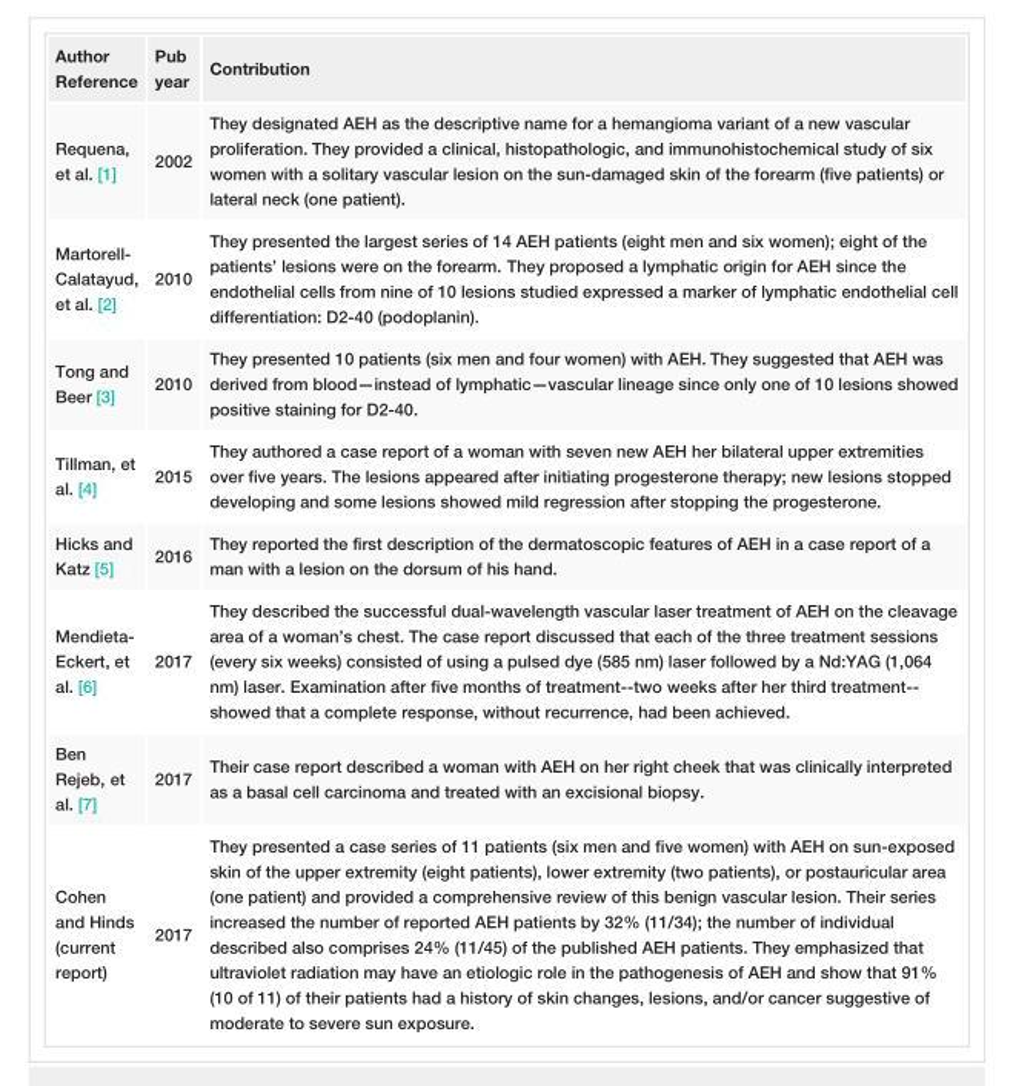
<table><tbody><tr><td>Author Reference</td><td>Pub year</td><td>Contribution</td></tr><tr><td>Requena, et al. [1]</td><td>2002</td><td>They designated AEH as the descriptive name for a hemangioma variant of a new vascular proliferation. They provided a clinical, histopathologic, and immunohistochemical study of six women with a solitary vascular lesion on the sun-damaged skin of the forearm (five patients) or lateral neck (one patient).</td></tr><tr><td>Martorell- Calatayud, et al. [2]</td><td>2010</td><td>They presented the largest series of 14 AEH patients (eight men and six women); eight of the patients’ lesions were on the forearm. They proposed a lymphatic origin for AEH since the endothelial cells from nine of 10 lesions studied expressed a marker of lymphatic endothelial cell differentiation: D2-40 (podoplanin).</td></tr><tr><td>Tong and Beer [3]</td><td>2010</td><td>They presented 10 patients (six men and four women) with AEH. They suggested that AEH was derived from blood—instead of lymphatic—vascular lineage since only one of 10 lesions showed positive staining for D2-40.</td></tr><tr><td>Tillman, et al. [4]</td><td>2015</td><td>They authored a case report of a woman with seven new AEH her bilateral upper extremities over five years. The lesions appeared after initiating progesterone therapy; new lesions stopped developing and some lesions showed mild regression after stopping the progesterone.</td></tr><tr><td>Hicks and Katz [5]</td><td>2016</td><td>They reported the first description of the dermatoscopic features of AEH in a case report of a man with a lesion on the dorsum of his hand.</td></tr><tr><td>Mendieta- Eckert, et al. [6]</td><td>2017</td><td>They described the successful dual-wavelength vascular laser treatment of AEH on the cleavage area of a woman’s chest. The case report discussed that each of the three treatment sessions (every six weeks) consisted of using a pulsed dye (585 nm) laser followed by a Nd:YAG (1,064 nm) laser. Examination after five months of treatment--two weeks after her third treatment-- showed that a complete response, without recurrence, had been achieved.</td></tr><tr><td>Ben Rejeb, et al. [7]</td><td>2017</td><td>Their case report described a woman with AEH on her right cheek that was clinically interpreted as a basal cell carcinoma and treated with an excisional biopsy.</td></tr><tr><td>Cohen and Hinds (current report)</td><td>2017</td><td>They presented a case series of 11 patients (six men and five women) with AEH on sun-exposed skin of the upper extremity (eight patients), lower extremity (two patients), or postauricular area (one patient) and provided a comprehensive review of this benign vascular lesion. Their series increased the number of reported AEH patients by 32% (11/34); the number of individual described also comprises 24% (11/45) of the published AEH patients. They emphasized that ultraviolet radiation may have an etiologic role in the pathogenesis of AEH and show that 91% (10 of 11) of their patients had a history of skin changes, lesions, and/or cancer suggestive of moderate to severe sun exposure.</td></tr></tbody></table>